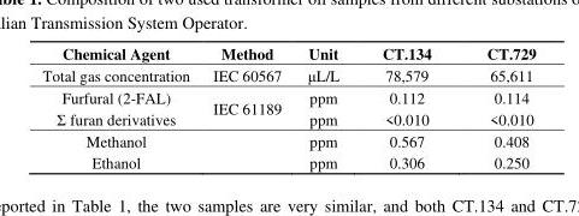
<table><thead><tr><td>Chemical Agent</td><td>Method</td><td>Unit</td><td>CT.134</td><td>CT.729</td></tr></thead><tbody><tr><td>Total gas concentration</td><td>IEC 60567</td><td>μL/L</td><td>78,579</td><td>65,611</td></tr><tr><td>Furfural (2-FAL)</td><td rowspan="2">IEC 61189</td><td>ppm</td><td>0.112</td><td>0.114</td></tr><tr><td>Σ furan derivatives</td><td>ppm</td><td>&lt;0.010</td><td>&lt;0.010</td></tr><tr><td>Methanol</td><td></td><td>ppm</td><td>0.567</td><td>0.408</td></tr><tr><td>Ethanol</td><td></td><td>ppm</td><td>0.306</td><td>0.250</td></tr></tbody></table>